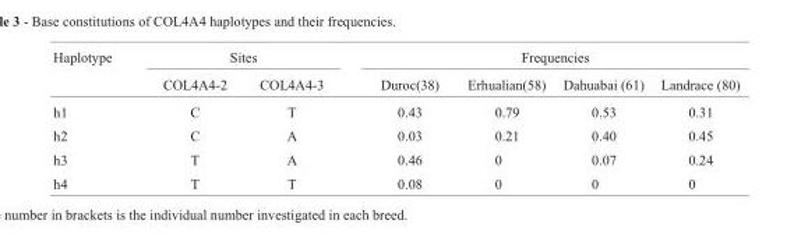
<table><thead><tr><td rowspan="2">Haplotype</td><td colspan="2">Sites</td><td colspan="4">Frequencies</td></tr><tr><td>COL4A4-2</td><td>COL4A4-3</td><td>Duroc(38)</td><td>Erhualian(58)</td><td>Dahuabai (61)</td><td>Landrace (80)</td></tr></thead><tbody><tr><td>h1</td><td>C</td><td>T</td><td>0.43</td><td>0.79</td><td>0.53</td><td>0.31</td></tr><tr><td>h2</td><td>C</td><td>A</td><td>0.03</td><td>0.21</td><td>0.40</td><td>0.45</td></tr><tr><td>h3</td><td>T</td><td>A</td><td>0.46</td><td>0</td><td>0.07</td><td>0.24</td></tr><tr><td>h4</td><td>T</td><td>T</td><td>0.08</td><td>0</td><td>0</td><td>0</td></tr></tbody></table>